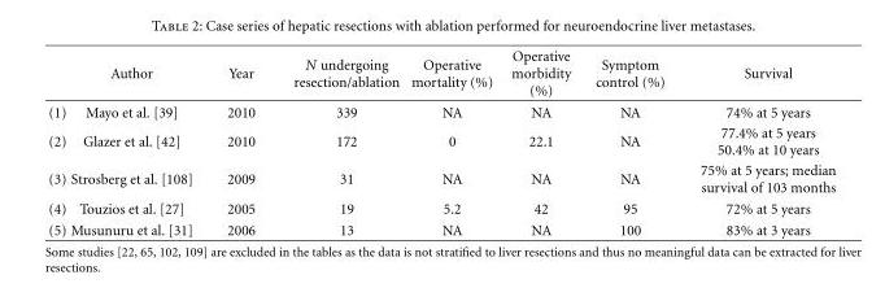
<table><thead><tr><td></td><td>Author</td><td>Year</td><td>N undergoing resection/ablation</td><td>Operative mortality (%)</td><td>Operative morbidity (%)</td><td>Symptom control (%)</td><td>Survival</td></tr></thead><tbody><tr><td>(1)</td><td>Mayo et al. [39]</td><td>2010</td><td>339</td><td>NA</td><td>NA</td><td>NA</td><td>74% at 5 years</td></tr><tr><td>(2)</td><td>Glazer et al. [42]</td><td>2010</td><td>172</td><td>0</td><td>22.1</td><td>NA</td><td>77.4% at 5 years 50.4% at 10 years</td></tr><tr><td>(3)</td><td>Strosberg et al. [108]</td><td>2009</td><td>31</td><td>NA</td><td>NA</td><td>NA</td><td>75% at 5 years; median survival of 103 months</td></tr><tr><td>(4)</td><td>Touzios et al. [27]</td><td>2005</td><td>19</td><td>5.2</td><td>42</td><td>95</td><td>72% at 5 years</td></tr><tr><td>(5)</td><td>Musunuru et al. [31]</td><td>2006</td><td>13</td><td>NA</td><td>NA</td><td>100</td><td>83% at 3 years</td></tr></tbody></table>